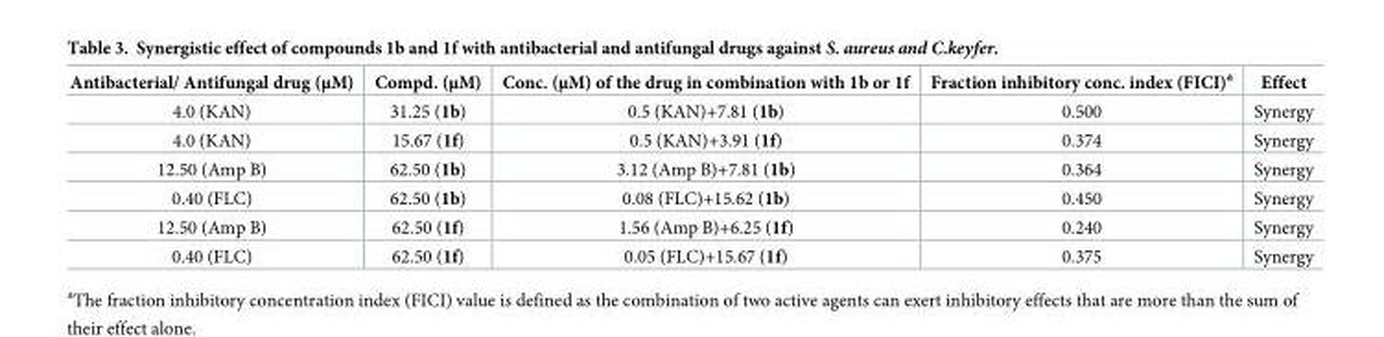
<table><thead><tr><td>Antibacterial/ Antifungal drug (μM)</td><td>Compd. (μM)</td><td>Conc. (μM) of the drug in combination with 1b or 1f</td><td>Fraction inhibitory conc. index (FICI)<sup>a</sup></td><td>Effect</td></tr></thead><tbody><tr><td>4.0 (KAN)</td><td>31.25 (1b)</td><td>0.5 (KAN)+7.81 (1b)</td><td>0.500</td><td>Synergy</td></tr><tr><td>4.0 (KAN)</td><td>15.67 (1f)</td><td>0.5 (KAN)+3.91 (1f)</td><td>0.374</td><td>Synergy</td></tr><tr><td>12.50 (Amp B)</td><td>62.50 (1b)</td><td>3.12 (Amp B)+7.81 (1b)</td><td>0.364</td><td>Synergy</td></tr><tr><td>0.40 (FLC)</td><td>62.50 (1b)</td><td>0.08 (FLC)+15.62 (1b)</td><td>0.450</td><td>Synergy</td></tr><tr><td>12.50 (Amp B)</td><td>62.50 (1f)</td><td>1.56 (Amp B)+6.25 (1f)</td><td>0.240</td><td>Synergy</td></tr><tr><td>0.40 (FLC)</td><td>62.50 (1f)</td><td>0.05 (FLC)+15.67 (1f)</td><td>0.375</td><td>Synergy</td></tr></tbody></table>